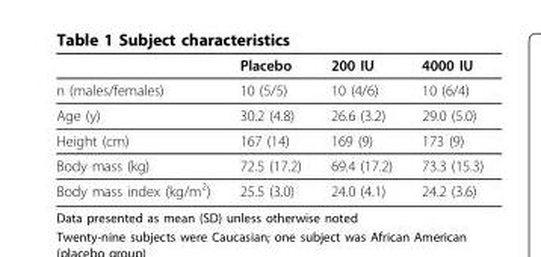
<table><thead><tr><td></td><td>Placebo</td><td>200 IU</td><td>4000 IU</td></tr></thead><tbody><tr><td>n (males/females)</td><td>10 (5/5)</td><td>10 (4/6)</td><td>10 (6/4)</td></tr><tr><td>Age (y)</td><td>30.2 (4.8)</td><td>26.6 (3.2)</td><td>29.0 (5.0)</td></tr><tr><td>Height (cm)</td><td>167 (14)</td><td>169 (9)</td><td>173 (9)</td></tr><tr><td>Body mass (kg)</td><td>72.5 (17.2)</td><td>69.4 (17.2)</td><td>73.3 (15.3)</td></tr><tr><td>Body mass index (kg/m<sup>2</sup>)</td><td>25.5 (3.0)</td><td>24.0 (4.1)</td><td>24.2 (3.6)</td></tr></tbody></table>